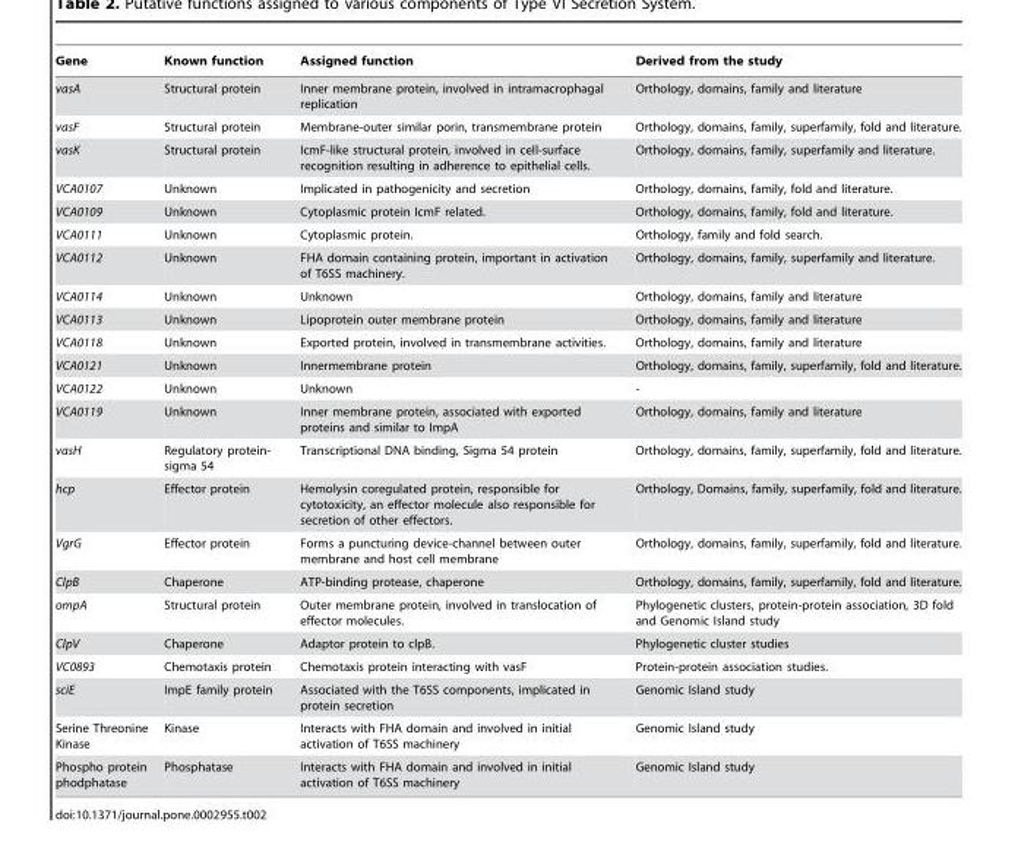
<table><thead><tr><td>Gene</td><td>Known function</td><td>Assigned function</td><td>Derived from the study</td></tr></thead><tbody><tr><td>vasA</td><td>Structural protein</td><td>Inner membrane protein, involved in intramacrophagal replication</td><td>Orthology, domains, family and literature</td></tr><tr><td>vasF</td><td>Structural protein</td><td>Membrane-outer similar porin, transmembrane protein</td><td>Orthology, domains, family, superfamily, fold and literature.</td></tr><tr><td>vasK</td><td>Structural protein</td><td>IcmF-like structural protein, involved in cell-surface recognition resulting in adherence to epithelial cells.</td><td>Orthology, domains, family, superfamily and literature.</td></tr><tr><td>VCA0107</td><td>Unknown</td><td>Implicated in pathogenicity and secretion</td><td>Orthology, domains, family, fold and literature.</td></tr><tr><td>VCA0109</td><td>Unknown</td><td>Cytoplasmic protein IcmF related.</td><td>Orthology, domains, family, fold and literature.</td></tr><tr><td>VCA0111</td><td>Unknown</td><td>Cytoplasmic protein.</td><td>Orthology, family and fold search.</td></tr><tr><td>VCA0112</td><td>Unknown</td><td>FHA domain containing protein, important in activation of T6SS machinery.</td><td>Orthology, domains, family, superfamily and literature.</td></tr><tr><td>VCA0114</td><td>Unknown</td><td>Unknown</td><td>Orthology, domains, family and literature</td></tr><tr><td>VCA0113</td><td>Unknown</td><td>Lipoprotein outer membrane protein</td><td>Orthology, domains, family and literature</td></tr><tr><td>VCA0118</td><td>Unknown</td><td>Exported protein, involved in transmembrane activities.</td><td>Orthology, domains, family and literature</td></tr><tr><td>VCA0121</td><td>Unknown</td><td>Innermembrane protein</td><td>Orthology, domains, family, superfamily, fold and literature.</td></tr><tr><td>VCA0122</td><td>Unknown</td><td>Unknown</td><td>-</td></tr><tr><td>VCA0119</td><td>Unknown</td><td>Inner membrane protein, associated with exported proteins and similar to ImpA</td><td>Orthology, domains, family and literature</td></tr><tr><td>vasH</td><td>Regulatory protein- sigma 54</td><td>Transcriptional DNA binding, Sigma 54 protein</td><td>Orthology, domains, family, superfamily, fold and literature.</td></tr><tr><td>hcp</td><td>Effector protein</td><td>Hemolysin coregulated protein, responsible for cytotoxicity, an effector molecule also responsible for secretion of other effectors.</td><td>Orthology, Domains, family, superfamily, fold and literature.</td></tr><tr><td>VgrG</td><td>Effector protein</td><td>Forms a puncturing device-channel between outer membrane and host cell membrane</td><td>Orthology, domains, family, superfamily, fold and literature.</td></tr><tr><td>ClpB</td><td>Chaperone</td><td>ATP-binding protease, chaperone</td><td>Orthology, domains, family, superfamily, fold and literature.</td></tr><tr><td>ompA</td><td>Structural protein</td><td>Outer membrane protein, involved in translocation of effector molecules.</td><td>Phylogenetic clusters, protein-protein association, 3D fold and Genomic Island study</td></tr><tr><td>ClpV</td><td>Chaperone</td><td>Adaptor protein to clpB.</td><td>Phylogenetic cluster studies</td></tr><tr><td>VC0893</td><td>Chemotaxis protein</td><td>Chemotaxis protein interacting with vasF</td><td>Protein-protein association studies.</td></tr><tr><td>sciE</td><td>ImpE family protein</td><td>Associated with the T6SS components, implicated in protein secretion</td><td>Genomic Island study</td></tr><tr><td>Serine Threonine Kinase</td><td>Kinase</td><td>Interacts with FHA domain and involved in initial activation of T6SS machinery</td><td>Genomic Island study</td></tr><tr><td>Phospho protein phodphatase</td><td>Phosphatase</td><td>Interacts with FHA domain and involved in initial activation of T6SS machinery</td><td>Genomic Island study</td></tr></tbody></table>